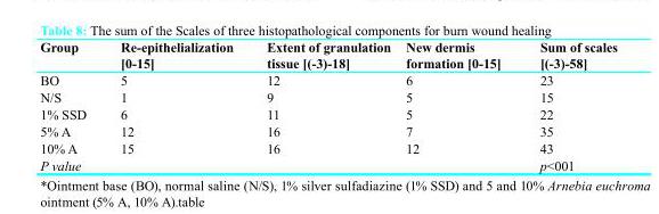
<table><thead><tr><td>Group</td><td>Re-epithelialization [0-15]</td><td>Extent of granulation tissue [(-3)-18]</td><td>New dermis formation [0-15]</td><td>Sum of scales [(-3)-58]</td></tr></thead><tbody><tr><td>BO</td><td>5</td><td>12</td><td>6</td><td>23</td></tr><tr><td>N/S</td><td>1</td><td>9</td><td>5</td><td>15</td></tr><tr><td>1% SSD</td><td>6</td><td>11</td><td>5</td><td>22</td></tr><tr><td>5% A</td><td>12</td><td>16</td><td>7</td><td>35</td></tr><tr><td>10% A</td><td>15</td><td>16</td><td>12</td><td>43</td></tr><tr><td>P value</td><td></td><td></td><td></td><td>p&lt;001</td></tr></tbody></table>